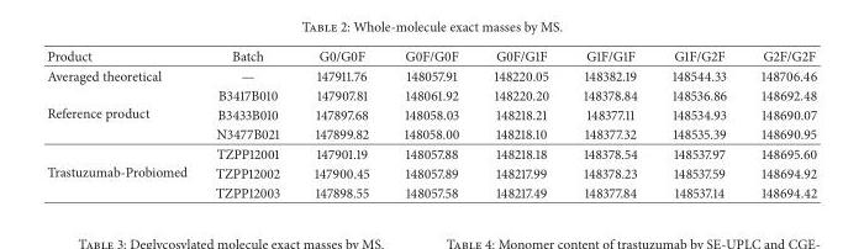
<table><thead><tr><td>Product</td><td>Batch</td><td>G0/G0F</td><td>G0F/G0F</td><td>G0F/G1F</td><td>G1F/G1F</td><td>G1F/G2F</td><td>G2F/G2F</td></tr></thead><tbody><tr><td>Averaged theoretical</td><td>—</td><td>147911.76</td><td>148057.91</td><td>148220.05</td><td>148382.19</td><td>148544.33</td><td>148706.46</td></tr><tr><td rowspan="3">Reference product</td><td>B3417B010</td><td>147907.81</td><td>148061.92</td><td>148220.20</td><td>148378.84</td><td>148536.86</td><td>148692.48</td></tr><tr><td>B3433B010</td><td>147897.68</td><td>148058.03</td><td>148218.21</td><td>148377.11</td><td>148534.93</td><td>148690.07</td></tr><tr><td>N3477B021</td><td>147899.82</td><td>148058.00</td><td>148218.10</td><td>148377.32</td><td>148535.39</td><td>148690.95</td></tr><tr><td rowspan="3">Trastuzumab-Probiomed</td><td>TZPP12001</td><td>147901.19</td><td>148057.88</td><td>148218.18</td><td>148378.54</td><td>148537.97</td><td>148695.60</td></tr><tr><td>TZPP12002</td><td>147900.45</td><td>148057.89</td><td>148217.99</td><td>148378.23</td><td>148537.59</td><td>148694.92</td></tr><tr><td>TZPP12003</td><td>147898.55</td><td>148057.58</td><td>148217.49</td><td>148377.84</td><td>148537.14</td><td>148694.42</td></tr></tbody></table>